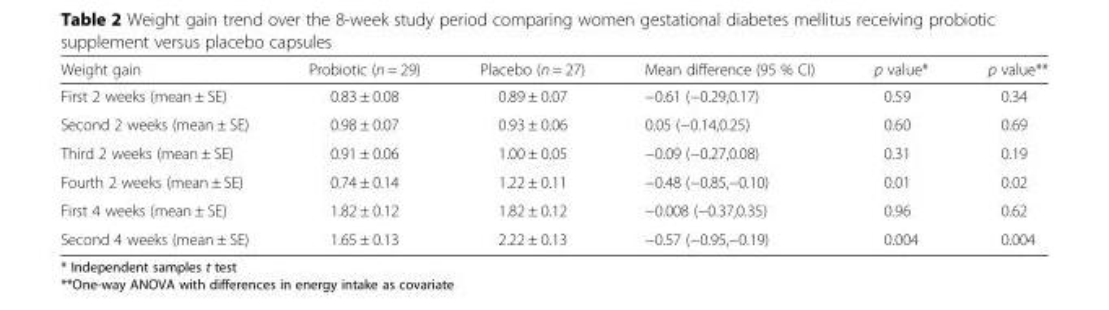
<table><thead><tr><td>Weight gain</td><td>Probiotic (n = 29)</td><td>Placebo (n = 27)</td><td>Mean difference (95 % CI)</td><td>p value*</td><td>p value**</td></tr></thead><tbody><tr><td>First 2 weeks (mean ± SE)</td><td>0.83 ± 0.08</td><td>0.89 ± 0.07</td><td>−0.61 (−0.29,0.17)</td><td>0.59</td><td>0.34</td></tr><tr><td>Second 2 weeks (mean ± SE)</td><td>0.98 ± 0.07</td><td>0.93 ± 0.06</td><td>0.05 (−0.14,0.25)</td><td>0.60</td><td>0.69</td></tr><tr><td>Third 2 weeks (mean ± SE)</td><td>0.91 ± 0.06</td><td>1.00 ± 0.05</td><td>−0.09 (−0.27,0.08)</td><td>0.31</td><td>0.19</td></tr><tr><td>Fourth 2 weeks (mean ± SE)</td><td>0.74 ± 0.14</td><td>1.22 ± 0.11</td><td>−0.48 (−0.85,−0.10)</td><td>0.01</td><td>0.02</td></tr><tr><td>First 4 weeks (mean ± SE)</td><td>1.82 ± 0.12</td><td>1.82 ± 0.12</td><td>−0.008 (−0.37,0.35)</td><td>0.96</td><td>0.62</td></tr><tr><td>Second 4 weeks (mean ± SE)</td><td>1.65 ± 0.13</td><td>2.22 ± 0.13</td><td>−0.57 (−0.95,−0.19)</td><td>0.004</td><td>0.004</td></tr></tbody></table>